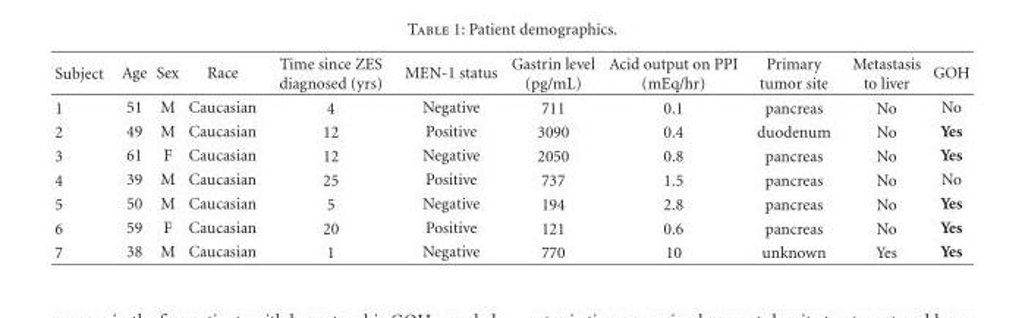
<table><thead><tr><td>Subject</td><td>Age</td><td>Sex</td><td>Race</td><td>Time since ZES diagnosed (yrs)</td><td>MEN-1 status</td><td>Gastrin level (pg/mL)</td><td>Acid output on PPI (mEq/hr)</td><td>Primary tumor site</td><td>Metastasis to liver</td><td>GOH</td></tr></thead><tbody><tr><td>1</td><td>51</td><td>M</td><td>Caucasian</td><td>4</td><td>Negative</td><td>711</td><td>0.1</td><td>pancreas</td><td>No</td><td>No</td></tr><tr><td>2</td><td>49</td><td>M</td><td>Caucasian</td><td>12</td><td>Positive</td><td>3090</td><td>0.4</td><td>duodenum</td><td>No</td><td>Yes</td></tr><tr><td>3</td><td>61</td><td>F</td><td>Caucasian</td><td>12</td><td>Negative</td><td>2050</td><td>0.8</td><td>pancreas</td><td>No</td><td>Yes</td></tr><tr><td>4</td><td>39</td><td>M</td><td>Caucasian</td><td>25</td><td>Positive</td><td>737</td><td>1.5</td><td>pancreas</td><td>No</td><td>No</td></tr><tr><td>5</td><td>50</td><td>M</td><td>Caucasian</td><td>5</td><td>Negative</td><td>194</td><td>2.8</td><td>pancreas</td><td>No</td><td>Yes</td></tr><tr><td>6</td><td>59</td><td>F</td><td>Caucasian</td><td>20</td><td>Positive</td><td>121</td><td>0.6</td><td>pancreas</td><td>No</td><td>Yes</td></tr><tr><td>7</td><td>38</td><td>M</td><td>Caucasian</td><td>1</td><td>Negative</td><td>770</td><td>10</td><td>unknown</td><td>Yes</td><td>Yes</td></tr></tbody></table>